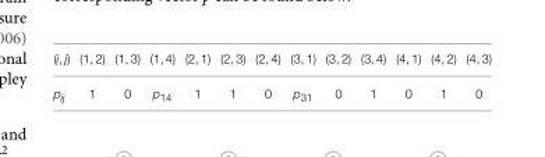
<table><thead><tr><td>(i, j)</td><td>(1, 2)</td><td>(1, 3)</td><td>(1, 4)</td><td>(2, 1)</td><td>(2, 3)</td><td>(2, 4)</td><td>(3, 1)</td><td>(3, 2)</td><td>(3, 4)</td><td>(4, 1)</td><td>(4, 2)</td><td>(4, 3)</td></tr></thead><tbody><tr><td>p<sub>ij</sub></td><td>1</td><td>0</td><td>p<sub>14</sub></td><td>1</td><td>1</td><td>0</td><td>p<sub>31</sub></td><td>0</td><td>1</td><td>0</td><td>1</td><td>0</td></tr></tbody></table>